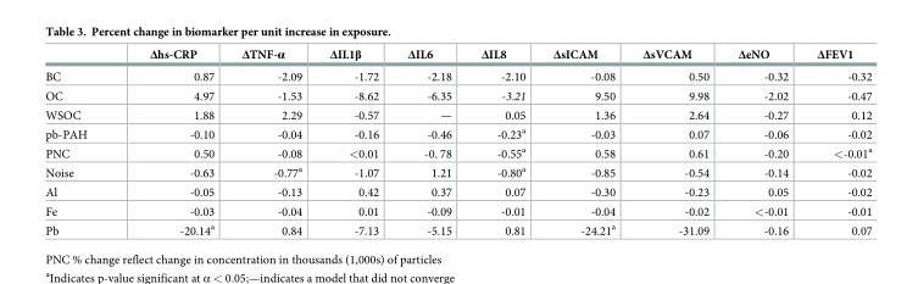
<table><thead><tr><td></td><td>Δhs-CRP</td><td>ΔTNF-α</td><td>ΔIL1β</td><td>ΔIL6</td><td>ΔIL8</td><td>ΔsICAM</td><td>ΔsVCAM</td><td>ΔeNO</td><td>ΔFEV1</td></tr></thead><tbody><tr><td>BC</td><td>0.87</td><td>-2.09</td><td>-1.72</td><td>-2.18</td><td>-2.10</td><td>-0.08</td><td>0.50</td><td>-0.32</td><td>-0.32</td></tr><tr><td>OC</td><td>4.97</td><td>-1.53</td><td>-8.62</td><td>-6.35</td><td>-3.21</td><td>9.50</td><td>9.98</td><td>-2.02</td><td>-0.47</td></tr><tr><td>WSOC</td><td>1.88</td><td>2.29</td><td>-0.57</td><td>—</td><td>0.05</td><td>1.36</td><td>2.64</td><td>-0.27</td><td>0.12</td></tr><tr><td>pb-PAH</td><td>-0.10</td><td>-0.04</td><td>-0.16</td><td>-0.46</td><td>-0.23<sup>a</sup></td><td>-0.03</td><td>0.07</td><td>-0.06</td><td>-0.02</td></tr><tr><td>PNC</td><td>0.50</td><td>-0.08</td><td>&lt;0.01</td><td>-0. 78</td><td>-0.55<sup>a</sup></td><td>0.58</td><td>0.61</td><td>-0.20</td><td>&lt;-0.01<sup>a</sup></td></tr><tr><td>Noise</td><td>-0.63</td><td>-0.77<sup>a</sup></td><td>-1.07</td><td>1.21</td><td>-0.80<sup>a</sup></td><td>-0.85</td><td>-0.54</td><td>-0.14</td><td>-0.02</td></tr><tr><td>Al</td><td>-0.05</td><td>-0.13</td><td>0.42</td><td>0.37</td><td>0.07</td><td>-0.30</td><td>-0.23</td><td>0.05</td><td>-0.02</td></tr><tr><td>Fe</td><td>-0.03</td><td>-0.04</td><td>0.01</td><td>-0.09</td><td>-0.01</td><td>-0.04</td><td>-0.02</td><td>&lt;-0.01</td><td>-0.01</td></tr><tr><td>Pb</td><td>-20.14<sup>a</sup></td><td>0.84</td><td>-7.13</td><td>-5.15</td><td>0.81</td><td>-24.21<sup>a</sup></td><td>-31.09</td><td>-0.16</td><td>0.07</td></tr></tbody></table>